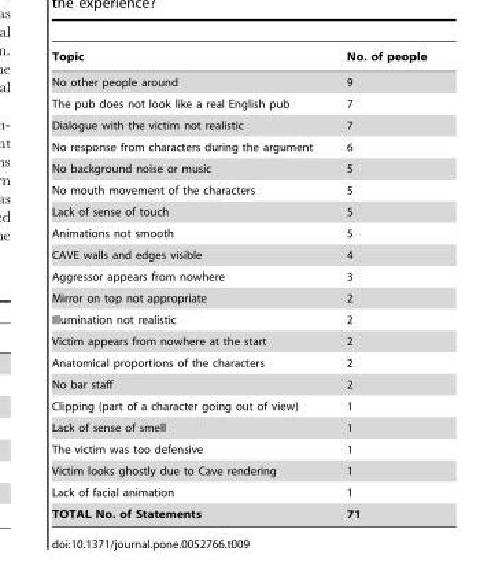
<table><thead><tr><td>Topic</td><td>No. of people</td></tr></thead><tbody><tr><td>No other people around</td><td>9</td></tr><tr><td>The pub does not look like a real English pub</td><td>7</td></tr><tr><td>Dialogue with the victim not realistic</td><td>7</td></tr><tr><td>No response from characters during the argument</td><td>6</td></tr><tr><td>No background noise or music</td><td>5</td></tr><tr><td>No mouth movement of the characters</td><td>5</td></tr><tr><td>Lack of sense of touch</td><td>5</td></tr><tr><td>Animations not smooth</td><td>5</td></tr><tr><td>CAVE walls and edges visible</td><td>4</td></tr><tr><td>Aggressor appears from nowhere</td><td>3</td></tr><tr><td>Mirror on top not appropriate</td><td>2</td></tr><tr><td>Illumination not realistic</td><td>2</td></tr><tr><td>Victim appears from nowhere at the start</td><td>2</td></tr><tr><td>Anatomical proportions of the characters</td><td>2</td></tr><tr><td>No bar staff</td><td>2</td></tr><tr><td>Clipping (part of a character going out of view)</td><td>1</td></tr><tr><td>Lack of sense of smell</td><td>1</td></tr><tr><td>The victim was too defensive</td><td>1</td></tr><tr><td>Victim looks ghostly due to Cave rendering</td><td>1</td></tr><tr><td>Lack of facial animation</td><td>1</td></tr><tr><td>TOTAL No. of Statements</td><td>71</td></tr></tbody></table>